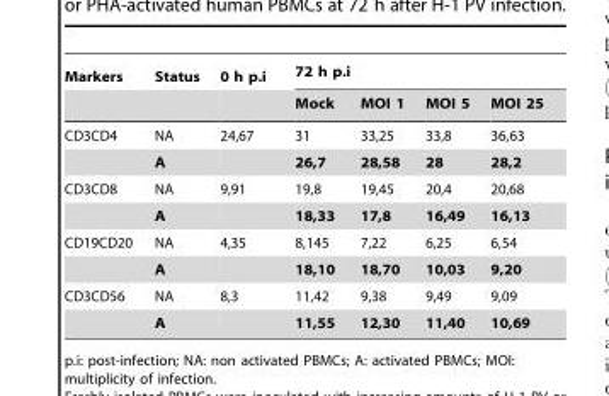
<table><thead><tr><td rowspan="2">Markers</td><td rowspan="2">Status</td><td rowspan="2">0 h p.i</td><td colspan="4">72 h p.i</td></tr><tr><td>Mock</td><td>MOI 1</td><td>MOI 5</td><td>MOI 25</td></tr></thead><tbody><tr><td rowspan="2">CD3CD4</td><td>NA</td><td>24,67</td><td>31</td><td>33,25</td><td>33,8</td><td>36,63</td></tr><tr><td>A</td><td></td><td>26,7</td><td>28,58</td><td>28</td><td>28,2</td></tr><tr><td rowspan="2">CD3CD8</td><td>NA</td><td>9,91</td><td>19,8</td><td>19,45</td><td>20,4</td><td>20,68</td></tr><tr><td>A</td><td></td><td>18,33</td><td>17,8</td><td>16,49</td><td>16,13</td></tr><tr><td rowspan="2">CD19CD20</td><td>NA</td><td>4,35</td><td>8,145</td><td>7,22</td><td>6,25</td><td>6,54</td></tr><tr><td>A</td><td></td><td>18,10</td><td>18,70</td><td>10,03</td><td>9,20</td></tr><tr><td rowspan="2">CD3CD56</td><td>NA</td><td>8,3</td><td>11,42</td><td>9,38</td><td>9,49</td><td>9,09</td></tr><tr><td>A</td><td></td><td>11,55</td><td>12,30</td><td>11,40</td><td>10,69</td></tr></tbody></table>